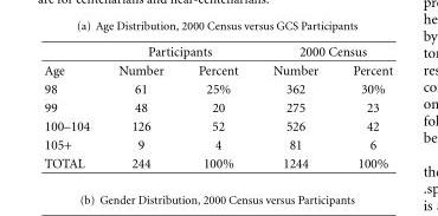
<table><thead><tr><td rowspan="2">Age</td><td colspan="2">Participants</td><td colspan="2">2000 Census</td></tr><tr><td>Number</td><td>Percent</td><td>Number</td><td>Percent</td></tr></thead><tbody><tr><td>98</td><td>61</td><td>25%</td><td>362</td><td>30%</td></tr><tr><td>99</td><td>48</td><td>20</td><td>275</td><td>23</td></tr><tr><td>100–104</td><td>126</td><td>52</td><td>526</td><td>42</td></tr><tr><td>105+</td><td>9</td><td>4</td><td>81</td><td>6</td></tr><tr><td>TOTAL</td><td>244</td><td>100%</td><td>1244</td><td>100%</td></tr></tbody></table>